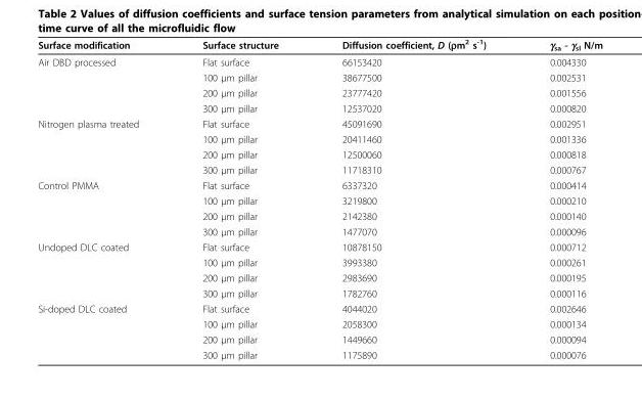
<table><thead><tr><td>Surface modification</td><td>Surface structure</td><td>Diffusion coefficient, D (ρm<sup>2</sup> s<sup>-1</sup>)</td><td>γ<sub>sa</sub> - γ<sub>sl</sub> N/m</td></tr></thead><tbody><tr><td rowspan="4">Air DBD processed</td><td>Flat surface</td><td>66153420</td><td>0.004330</td></tr><tr><td>100 μm pillar</td><td>38677500</td><td>0.002531</td></tr><tr><td>200 μm pillar</td><td>23777420</td><td>0.001556</td></tr><tr><td>300 μm pillar</td><td>12537020</td><td>0.000820</td></tr><tr><td rowspan="4">Nitrogen plasma treated</td><td>Flat surface</td><td>45091690</td><td>0.002951</td></tr><tr><td>100 μm pillar</td><td>20411460</td><td>0.001336</td></tr><tr><td>200 μm pillar</td><td>12500060</td><td>0.000818</td></tr><tr><td>300 μm pillar</td><td>11718310</td><td>0.000767</td></tr><tr><td rowspan="4">Control PMMA</td><td>Flat surface</td><td>6337320</td><td>0.000414</td></tr><tr><td>100 μm pillar</td><td>3219800</td><td>0.000210</td></tr><tr><td>200 μm pillar</td><td>2142380</td><td>0.000140</td></tr><tr><td>300 μm pillar</td><td>1477070</td><td>0.000096</td></tr><tr><td rowspan="4">Undoped DLC coated</td><td>Flat surface</td><td>10878150</td><td>0.000712</td></tr><tr><td>100 μm pillar</td><td>3993380</td><td>0.000261</td></tr><tr><td>200 μm pillar</td><td>2983690</td><td>0.000195</td></tr><tr><td>300 μm pillar</td><td>1782760</td><td>0.000116</td></tr><tr><td rowspan="4">Si-doped DLC coated</td><td>Flat surface</td><td>4044020</td><td>0.002646</td></tr><tr><td>100 μm pillar</td><td>2058300</td><td>0.000134</td></tr><tr><td>200 μm pillar</td><td>1449660</td><td>0.000094</td></tr><tr><td>300 μm pillar</td><td>1175890</td><td>0.000076</td></tr></tbody></table>